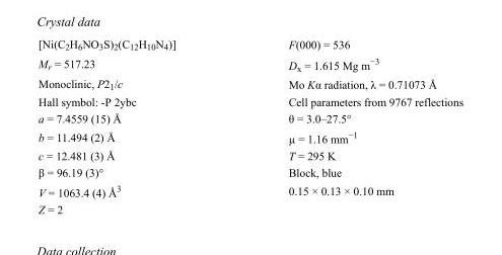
<table><tbody><tr><td>[Ni(C<sub>2</sub>H<sub>6</sub>NO<sub>3</sub>S)<sub>2</sub>(C<sub>12</sub>H<sub>10</sub>N<sub>4</sub>)]</td><td>F(000) = 536</td></tr><tr><td>M<sub>r</sub> = 517.23</td><td>D<sub>x</sub> = 1.615 Mg m<sup>−3</sup></td></tr><tr><td>Monoclinic, P2<sub>1</sub>/c</td><td>Mo Kα radiation, λ = 0.71073 Å</td></tr><tr><td>Hall symbol: -P 2ybc</td><td>Cell parameters from 9767 reflections</td></tr><tr><td>a = 7.4559 (15) Å</td><td>θ = 3.0–27.5°</td></tr><tr><td>b = 11.494 (2) Å</td><td>µ = 1.16 mm<sup>−1</sup></td></tr><tr><td>c = 12.481 (3) Å</td><td>T = 295 K</td></tr><tr><td>β = 96.19 (3)°</td><td>Block, blue</td></tr><tr><td>V = 1063.4 (4) Å<sup>3</sup></td><td>0.15 × 0.13 × 0.10 mm</td></tr><tr><td>Z = 2</td><td></td></tr></tbody></table>